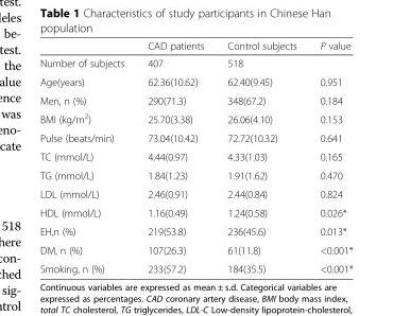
<table><thead><tr><td></td><td>CAD patients</td><td>Control subjects</td><td>P value</td></tr></thead><tbody><tr><td>Number of subjects</td><td>407</td><td>518</td><td></td></tr><tr><td>Age(years)</td><td>62.36(10.62)</td><td>62.40(9.45)</td><td>0.951</td></tr><tr><td>Men, n (%)</td><td>290(71.3)</td><td>348(67.2)</td><td>0.184</td></tr><tr><td>BMI (kg/m<sup>2</sup>)</td><td>25.70(3.38)</td><td>26.06(4.10)</td><td>0.153</td></tr><tr><td>Pulse (beats/min)</td><td>73.04(10.42)</td><td>72.72(10.32)</td><td>0.641</td></tr><tr><td>TC (mmol/L)</td><td>4.44(0.97)</td><td>4.33(1.03)</td><td>0.165</td></tr><tr><td>TG (mmol/L)</td><td>1.84(1.23)</td><td>1.91(1.62)</td><td>0.470</td></tr><tr><td>LDL (mmol/L)</td><td>2.46(0.91)</td><td>2.44(0.84)</td><td>0.824</td></tr><tr><td>HDL (mmol/L)</td><td>1.16(0.49)</td><td>1.24(0.58)</td><td>0.026*</td></tr><tr><td>EH,n (%)</td><td>219(53.8)</td><td>236(45.6)</td><td>0.013*</td></tr><tr><td>DM, n (%)</td><td>107(26.3)</td><td>61(11.8)</td><td>&lt;0.001*</td></tr><tr><td>Smoking, n (%)</td><td>233(57.2)</td><td>184(35.5)</td><td>&lt;0.001*</td></tr></tbody></table>